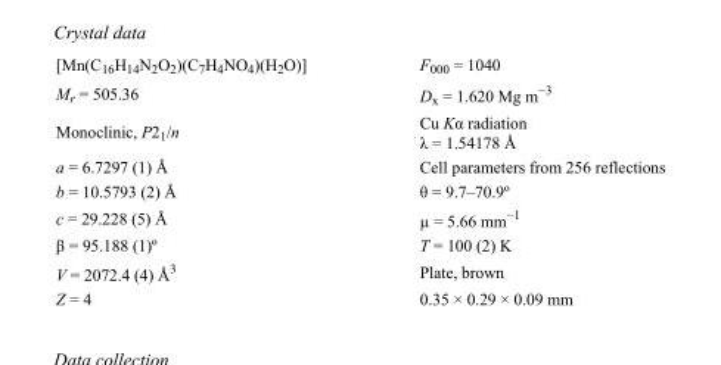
<table><tbody><tr><td>[Mn(C<sub>16</sub>H<sub>14</sub>N<sub>2</sub>O<sub>2</sub>)(C<sub>7</sub>H<sub>4</sub>NO<sub>4</sub>)(H<sub>2</sub>O)]</td><td>F<sub>000</sub> = 1040</td></tr><tr><td>M<sub>r</sub> = 505.36</td><td>D<sub>x</sub> = 1.620 Mg m<sup>−3</sup></td></tr><tr><td>Monoclinic, P2<sub>1</sub>/n</td><td>Cu Kα radiation λ = 1.54178 Å</td></tr><tr><td>a = 6.7297 (1) Å</td><td>Cell parameters from 256 reflections</td></tr><tr><td>b = 10.5793 (2) Å</td><td>θ = 9.7–70.9º</td></tr><tr><td>c = 29.228 (5) Å</td><td>µ = 5.66 mm<sup>−1</sup></td></tr><tr><td>β = 95.188 (1)º</td><td>T = 100 (2) K</td></tr><tr><td>V = 2072.4 (4) Å<sup>3</sup></td><td>Plate, brown</td></tr><tr><td>Z = 4</td><td>0.35 × 0.29 × 0.09 mm</td></tr></tbody></table>